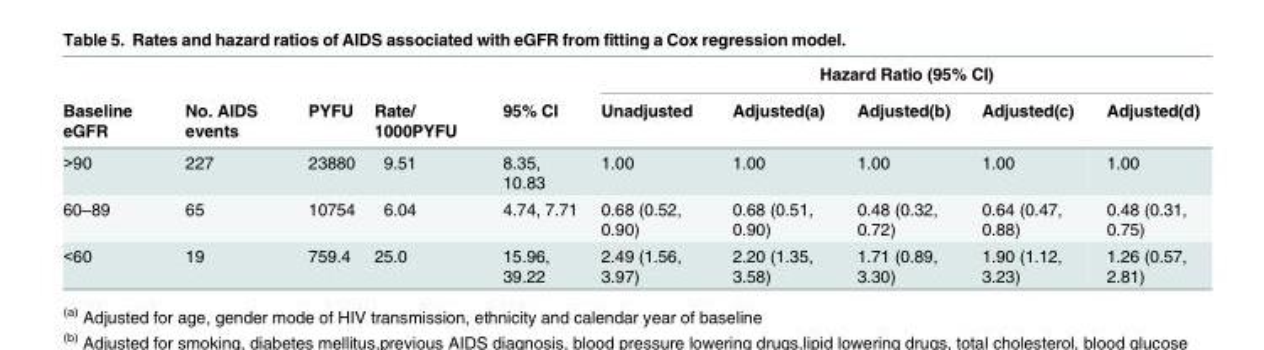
<table><thead><tr><td rowspan="2">Baseline eGFR</td><td rowspan="2">No. AIDS events</td><td rowspan="2">PYFU</td><td rowspan="2">Rate/ 1000PYFU</td><td rowspan="2">95% CI</td><td colspan="5">Hazard Ratio (95% CI)</td></tr><tr><td>Unadjusted</td><td>Adjusted(a)</td><td>Adjusted(b)</td><td>Adjusted(c)</td><td>Adjusted(d)</td></tr></thead><tbody><tr><td>&gt;90</td><td>227</td><td>23880</td><td>9.51</td><td>8.35, 10.83</td><td>1.00</td><td>1.00</td><td>1.00</td><td>1.00</td><td>1.00</td></tr><tr><td>60–89</td><td>65</td><td>10754</td><td>6.04</td><td>4.74, 7.71</td><td>0.68 (0.52, 0.90)</td><td>0.68 (0.51, 0.90)</td><td>0.48 (0.32, 0.72)</td><td>0.64 (0.47, 0.88)</td><td>0.48 (0.31, 0.75)</td></tr><tr><td>&lt;60</td><td>19</td><td>759.4</td><td>25.0</td><td>15.96, 39.22</td><td>2.49 (1.56, 3.97)</td><td>2.20 (1.35, 3.58)</td><td>1.71 (0.89, 3.30)</td><td>1.90 (1.12, 3.23)</td><td>1.26 (0.57, 2.81)</td></tr></tbody></table>